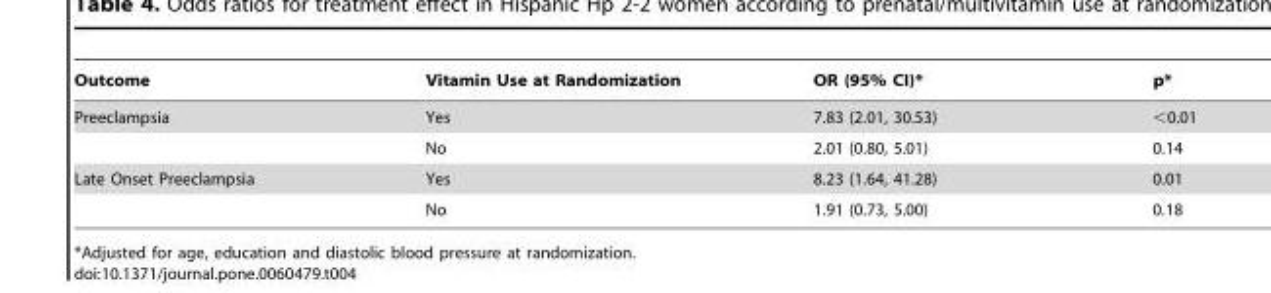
<table><thead><tr><td>Outcome</td><td>Vitamin Use at Randomization</td><td>OR (95% CI)*</td><td>p*</td></tr></thead><tbody><tr><td rowspan="2">Preeclampsia</td><td>Yes</td><td>7.83 (2.01, 30.53)</td><td>&lt;0.01</td></tr><tr><td>No</td><td>2.01 (0.80, 5.01)</td><td>0.14</td></tr><tr><td rowspan="2">Late Onset Preeclampsia</td><td>Yes</td><td>8.23 (1.64, 41.28)</td><td>0.01</td></tr><tr><td>No</td><td>1.91 (0.73, 5.00)</td><td>0.18</td></tr></tbody></table>